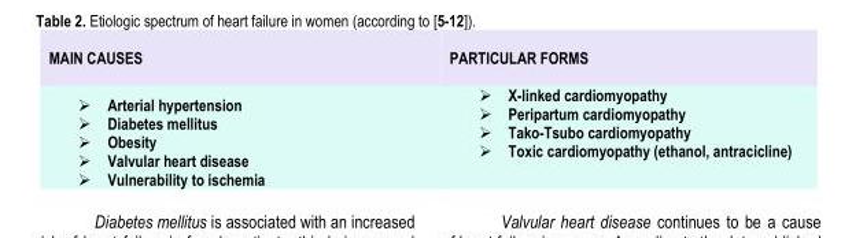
<table><thead><tr><td rowspan="2">MAIN CAUSES  Arterial hypertension  Diabetes mellitus  Obesity  Valvular heart disease  Vulnerability to ischemia</td><td rowspan="2">PARTICULAR FORMS  X-linked cardiomyopathy  Peripartum cardiomyopathy  Tako-Tsubo cardiomyopathy  Toxic cardiomyopathy (ethanol, antracicline)</td></tr><tr></tr></thead><tbody></tbody></table>